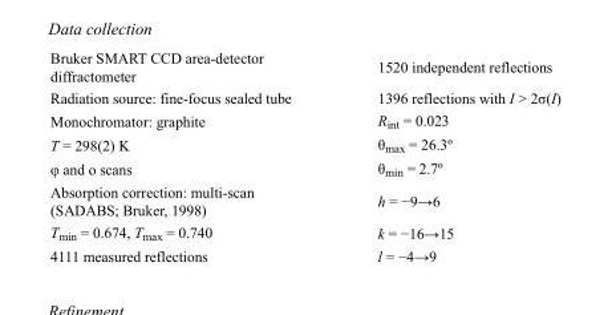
<table><tbody><tr><td>Bruker SMART CCD area-detector diffractometer</td><td>1520 independent reflections</td></tr><tr><td>Radiation source: fine-focus sealed tube</td><td>1396 reflections with I &gt; 2σ(I)</td></tr><tr><td>Monochromator: graphite</td><td>R<sub>int</sub> = 0.023</td></tr><tr><td>T = 298(2) K</td><td>θ<sub>max</sub> = 26.3º</td></tr><tr><td>φ and ο scans</td><td>θ<sub>min</sub> = 2.7º</td></tr><tr><td>Absorption correction: multi-scan (SADABS; Bruker, 1998)</td><td>h = −9→6</td></tr><tr><td>T<sub>min</sub> = 0.674, T<sub>max</sub> = 0.740</td><td>k = −16→15</td></tr><tr><td>4111 measured reflections</td><td>l = −4→9</td></tr></tbody></table>